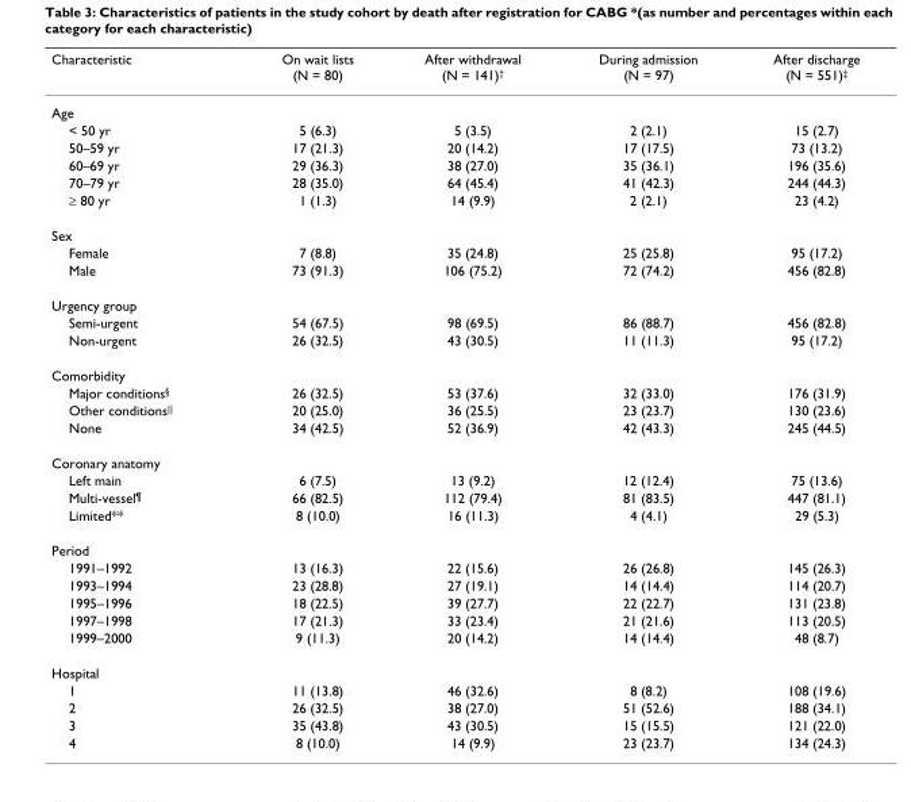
<table><thead><tr><td>Characteristic</td><td>On wait lists (N = 80)</td><td>After withdrawal (N = 141)<sup>†</sup></td><td>During admission (N = 97)</td><td>After discharge (N = 551)<sup>‡</sup></td></tr></thead><tbody><tr><td colspan="5">Age</td></tr><tr><td>&lt; 50 yr</td><td>5 (6.3)</td><td>5 (3.5)</td><td>2 (2.1)</td><td>15 (2.7)</td></tr><tr><td>50–59 yr</td><td>17 (21.3)</td><td>20 (14.2)</td><td>17 (17.5)</td><td>73 (13.2)</td></tr><tr><td>60–69 yr</td><td>29 (36.3)</td><td>38 (27.0)</td><td>35 (36.1)</td><td>196 (35.6)</td></tr><tr><td>70–79 yr</td><td>28 (35.0)</td><td>64 (45.4)</td><td>41 (42.3)</td><td>244 (44.3)</td></tr><tr><td>≥ 80 yr</td><td>1 (1.3)</td><td>14 (9.9)</td><td>2 (2.1)</td><td>23 (4.2)</td></tr><tr><td colspan="5">Sex</td></tr><tr><td>Female</td><td>7 (8.8)</td><td>35 (24.8)</td><td>25 (25.8)</td><td>95 (17.2)</td></tr><tr><td>Male</td><td>73 (91.3)</td><td>106 (75.2)</td><td>72 (74.2)</td><td>456 (82.8)</td></tr><tr><td colspan="5">Urgency group</td></tr><tr><td>Semi-urgent</td><td>54 (67.5)</td><td>98 (69.5)</td><td>86 (88.7)</td><td>456 (82.8)</td></tr><tr><td>Non-urgent</td><td>26 (32.5)</td><td>43 (30.5)</td><td>11 (11.3)</td><td>95 (17.2)</td></tr><tr><td colspan="5">Comorbidity</td></tr><tr><td>Major conditions<sup>§</sup></td><td>26 (32.5)</td><td>53 (37.6)</td><td>32 (33.0)</td><td>176 (31.9)</td></tr><tr><td>Other conditions<sup>||</sup></td><td>20 (25.0)</td><td>36 (25.5)</td><td>23 (23.7)</td><td>130 (23.6)</td></tr><tr><td>None</td><td>34 (42.5)</td><td>52 (36.9)</td><td>42 (43.3)</td><td>245 (44.5)</td></tr><tr><td colspan="5">Coronary anatomy</td></tr><tr><td>Left main</td><td>6 (7.5)</td><td>13 (9.2)</td><td>12 (12.4)</td><td>75 (13.6)</td></tr><tr><td>Multi-vessel<sup>¶</sup></td><td>66 (82.5)</td><td>112 (79.4)</td><td>81 (83.5)</td><td>447 (81.1)</td></tr><tr><td>Limited**</td><td>8 (10.0)</td><td>16 (11.3)</td><td>4 (4.1)</td><td>29 (5.3)</td></tr><tr><td colspan="5">Period</td></tr><tr><td>1991–1992</td><td>13 (16.3)</td><td>22 (15.6)</td><td>26 (26.8)</td><td>145 (26.3)</td></tr><tr><td>1993–1994</td><td>23 (28.8)</td><td>27 (19.1)</td><td>14 (14.4)</td><td>114 (20.7)</td></tr><tr><td>1995–1996</td><td>18 (22.5)</td><td>39 (27.7)</td><td>22 (22.7)</td><td>131 (23.8)</td></tr><tr><td>1997–1998</td><td>17 (21.3)</td><td>33 (23.4)</td><td>21 (21.6)</td><td>113 (20.5)</td></tr><tr><td>1999–2000</td><td>9 (11.3)</td><td>20 (14.2)</td><td>14 (14.4)</td><td>48 (8.7)</td></tr><tr><td colspan="5">Hospital</td></tr><tr><td>1</td><td>11 (13.8)</td><td>46 (32.6)</td><td>8 (8.2)</td><td>108 (19.6)</td></tr><tr><td>2</td><td>26 (32.5)</td><td>38 (27.0)</td><td>51 (52.6)</td><td>188 (34.1)</td></tr><tr><td>3</td><td>35 (43.8)</td><td>43 (30.5)</td><td>15 (15.5)</td><td>121 (22.0)</td></tr><tr><td>4</td><td>8 (10.0)</td><td>14 (9.9)</td><td>23 (23.7)</td><td>134 (24.3)</td></tr></tbody></table>